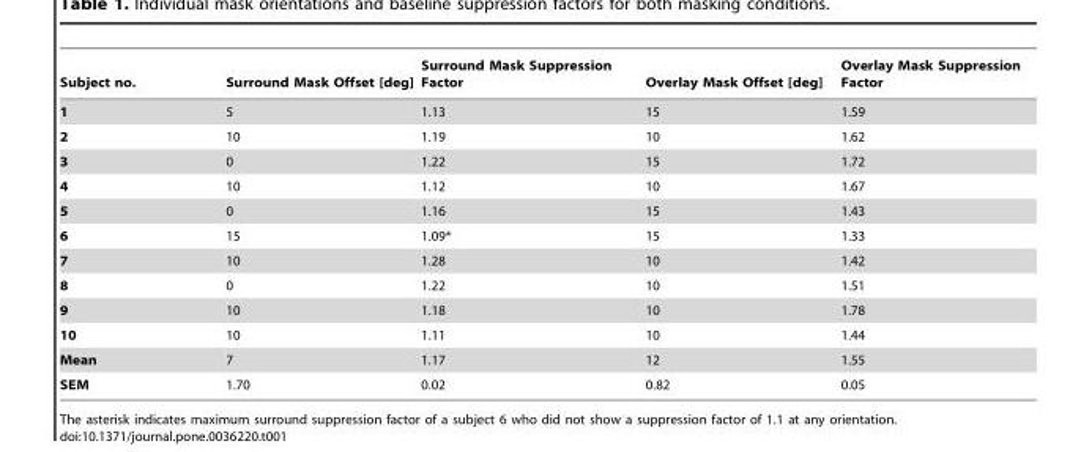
<table><thead><tr><td>Subject no.</td><td>Surround Mask Offset [deg]</td><td>Surround Mask Suppression Factor</td><td>Overlay Mask Offset [deg]</td><td>Overlay Mask Suppression Factor</td></tr></thead><tbody><tr><td>1</td><td>5</td><td>1.13</td><td>15</td><td>1.59</td></tr><tr><td>2</td><td>10</td><td>1.19</td><td>10</td><td>1.62</td></tr><tr><td>3</td><td>0</td><td>1.22</td><td>15</td><td>1.72</td></tr><tr><td>4</td><td>10</td><td>1.12</td><td>10</td><td>1.67</td></tr><tr><td>5</td><td>0</td><td>1.16</td><td>15</td><td>1.43</td></tr><tr><td>6</td><td>15</td><td>1.09*</td><td>15</td><td>1.33</td></tr><tr><td>7</td><td>10</td><td>1.28</td><td>10</td><td>1.42</td></tr><tr><td>8</td><td>0</td><td>1.22</td><td>10</td><td>1.51</td></tr><tr><td>9</td><td>10</td><td>1.18</td><td>10</td><td>1.78</td></tr><tr><td>10</td><td>10</td><td>1.11</td><td>10</td><td>1.44</td></tr><tr><td>Mean</td><td>7</td><td>1.17</td><td>12</td><td>1.55</td></tr><tr><td>SEM</td><td>1.70</td><td>0.02</td><td>0.82</td><td>0.05</td></tr></tbody></table>